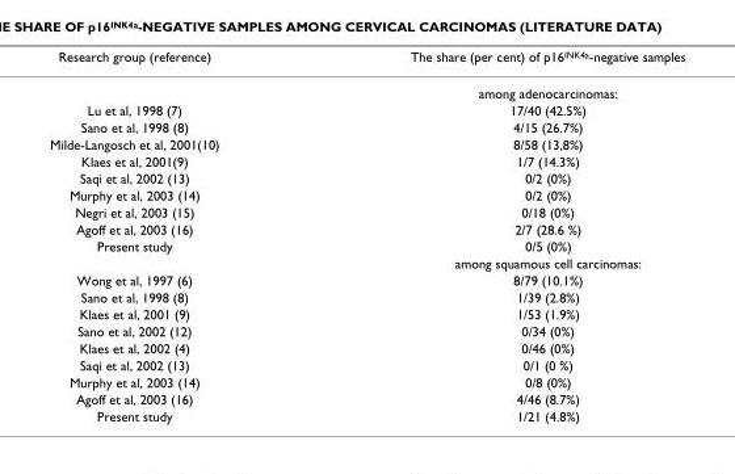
<table><thead><tr><td>Research group (reference)</td><td>The share (per cent) of p16INK4a-negative samples</td></tr></thead><tbody><tr><td></td><td>among adenocarcinomas:</td></tr><tr><td>Lu et al, 1998 (7)</td><td>17/40 (42.5%)</td></tr><tr><td>Sano et al, 1998 (8)</td><td>4/15 (26.7%)</td></tr><tr><td>Milde-Langosch et al, 2001(10)</td><td>8/58 (13,8%)</td></tr><tr><td>Klaes et al, 2001(9)</td><td>1/7 (14.3%)</td></tr><tr><td>Saqi et al, 2002 (13)</td><td>0/2 (0%)</td></tr><tr><td>Murphy et al, 2003 (14)</td><td>0/2 (0%)</td></tr><tr><td>Negri et al, 2003 (15)</td><td>0/18 (0%)</td></tr><tr><td>Agoff et al, 2003 (16)</td><td>2/7 (28.6 %)</td></tr><tr><td rowspan="2">Present study</td><td>0/5 (0%)</td></tr><tr><td>among squamous cell carcinomas:</td></tr><tr><td>Wong et al, 1997 (6)</td><td>8/79 (10.1%)</td></tr><tr><td>Sano et al, 1998 (8)</td><td>1/39 (2.8%)</td></tr><tr><td>Klaes et al, 2001 (9)</td><td>1/53 (1.9%)</td></tr><tr><td>Sano et al, 2002 (12)</td><td>0/34 (0%)</td></tr><tr><td>Klaes et al, 2002 (4)</td><td>0/46 (0%)</td></tr><tr><td>Saqi et al, 2002 (13)</td><td>0/1 (0 %)</td></tr><tr><td>Murphy et al, 2003 (14)</td><td>0/8 (0%)</td></tr><tr><td>Agoff et al, 2003 (16)</td><td>4/46 (8.7%)</td></tr><tr><td>Present study</td><td>1/21 (4.8%)</td></tr></tbody></table>